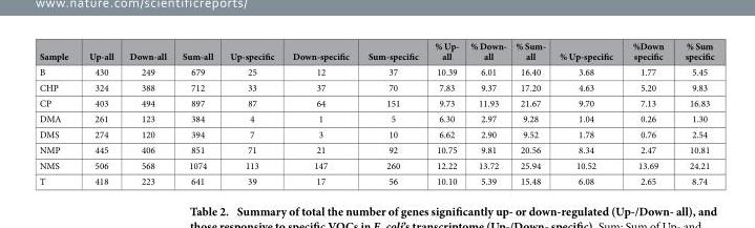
<table><thead><tr><td>Sample</td><td>Up-all</td><td>Down-all</td><td>Sum-all</td><td>Up-specific</td><td>Down-specific</td><td>Sum-specific</td><td>% Up- all</td><td>% Down- all</td><td>% Sum- all</td><td>% Up-specific</td><td>%Down specific</td><td>% Sum specific</td></tr></thead><tbody><tr><td>B</td><td>430</td><td>249</td><td>679</td><td>25</td><td>12</td><td>37</td><td>10.39</td><td>6.01</td><td>16.40</td><td>3.68</td><td>1.77</td><td>5.45</td></tr><tr><td>CHP</td><td>324</td><td>388</td><td>712</td><td>33</td><td>37</td><td>70</td><td>7.83</td><td>9.37</td><td>17.20</td><td>4.63</td><td>5.20</td><td>9.83</td></tr><tr><td>CP</td><td>403</td><td>494</td><td>897</td><td>87</td><td>64</td><td>151</td><td>9.73</td><td>11.93</td><td>21.67</td><td>9.70</td><td>7.13</td><td>16.83</td></tr><tr><td>DMA</td><td>261</td><td>123</td><td>384</td><td>4</td><td>1</td><td>5</td><td>6.30</td><td>2.97</td><td>9.28</td><td>1.04</td><td>0.26</td><td>1.30</td></tr><tr><td>DMS</td><td>274</td><td>120</td><td>394</td><td>7</td><td>3</td><td>10</td><td>6.62</td><td>2.90</td><td>9.52</td><td>1.78</td><td>0.76</td><td>2.54</td></tr><tr><td>NMP</td><td>445</td><td>406</td><td>851</td><td>71</td><td>21</td><td>92</td><td>10.75</td><td>9.81</td><td>20.56</td><td>8.34</td><td>2.47</td><td>10.81</td></tr><tr><td>NMS</td><td>506</td><td>568</td><td>1074</td><td>113</td><td>147</td><td>260</td><td>12.22</td><td>13.72</td><td>25.94</td><td>10.52</td><td>13.69</td><td>24.21</td></tr><tr><td>T</td><td>418</td><td>223</td><td>641</td><td>39</td><td>17</td><td>56</td><td>10.10</td><td>5.39</td><td>15.48</td><td>6.08</td><td>2.65</td><td>8.74</td></tr></tbody></table>